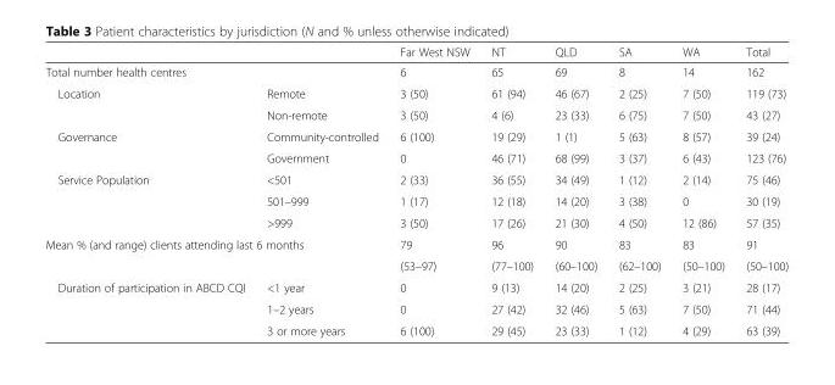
<table><thead><tr><td></td><td></td><td>Far West NSW</td><td>NT</td><td>QLD</td><td>SA</td><td>WA</td><td>Total</td></tr></thead><tbody><tr><td colspan="2">Total number health centres</td><td>6</td><td>65</td><td>69</td><td>8</td><td>14</td><td>162</td></tr><tr><td rowspan="2">Location</td><td>Remote</td><td>3 (50)</td><td>61 (94)</td><td>46 (67)</td><td>2 (25)</td><td>7 (50)</td><td>119 (73)</td></tr><tr><td>Non-remote</td><td>3 (50)</td><td>4 (6)</td><td>23 (33)</td><td>6 (75)</td><td>7 (50)</td><td>43 (27)</td></tr><tr><td rowspan="2">Governance</td><td>Community-controlled</td><td>6 (100)</td><td>19 (29)</td><td>1 (1)</td><td>5 (63)</td><td>8 (57)</td><td>39 (24)</td></tr><tr><td>Government</td><td>0</td><td>46 (71)</td><td>68 (99)</td><td>3 (37)</td><td>6 (43)</td><td>123 (76)</td></tr><tr><td rowspan="3">Service Population</td><td>&lt;501</td><td>2 (33)</td><td>36 (55)</td><td>34 (49)</td><td>1 (12)</td><td>2 (14)</td><td>75 (46)</td></tr><tr><td>501–999</td><td>1 (17)</td><td>12 (18)</td><td>14 (20)</td><td>3 (38)</td><td>0</td><td>30 (19)</td></tr><tr><td>&gt;999</td><td>3 (50)</td><td>17 (26)</td><td>21 (30)</td><td>4 (50)</td><td>12 (86)</td><td>57 (35)</td></tr><tr><td rowspan="2" colspan="2">Mean % (and range) clients attending last 6 months</td><td>79</td><td>96</td><td>90</td><td>83</td><td>83</td><td>91</td></tr><tr><td>(53–97)</td><td>(77–100)</td><td>(60–100)</td><td>(62–100)</td><td>(50–100)</td><td>(50–100)</td></tr><tr><td rowspan="3">Duration of participation in ABCD CQI</td><td>&lt;1 year</td><td>0</td><td>9 (13)</td><td>14 (20)</td><td>2 (25)</td><td>3 (21)</td><td>28 (17)</td></tr><tr><td>1–2 years</td><td>0</td><td>27 (42)</td><td>32 (46)</td><td>5 (63)</td><td>7 (50)</td><td>71 (44)</td></tr><tr><td>3 or more years</td><td>6 (100)</td><td>29 (45)</td><td>23 (33)</td><td>1 (12)</td><td>4 (29)</td><td>63 (39)</td></tr></tbody></table>